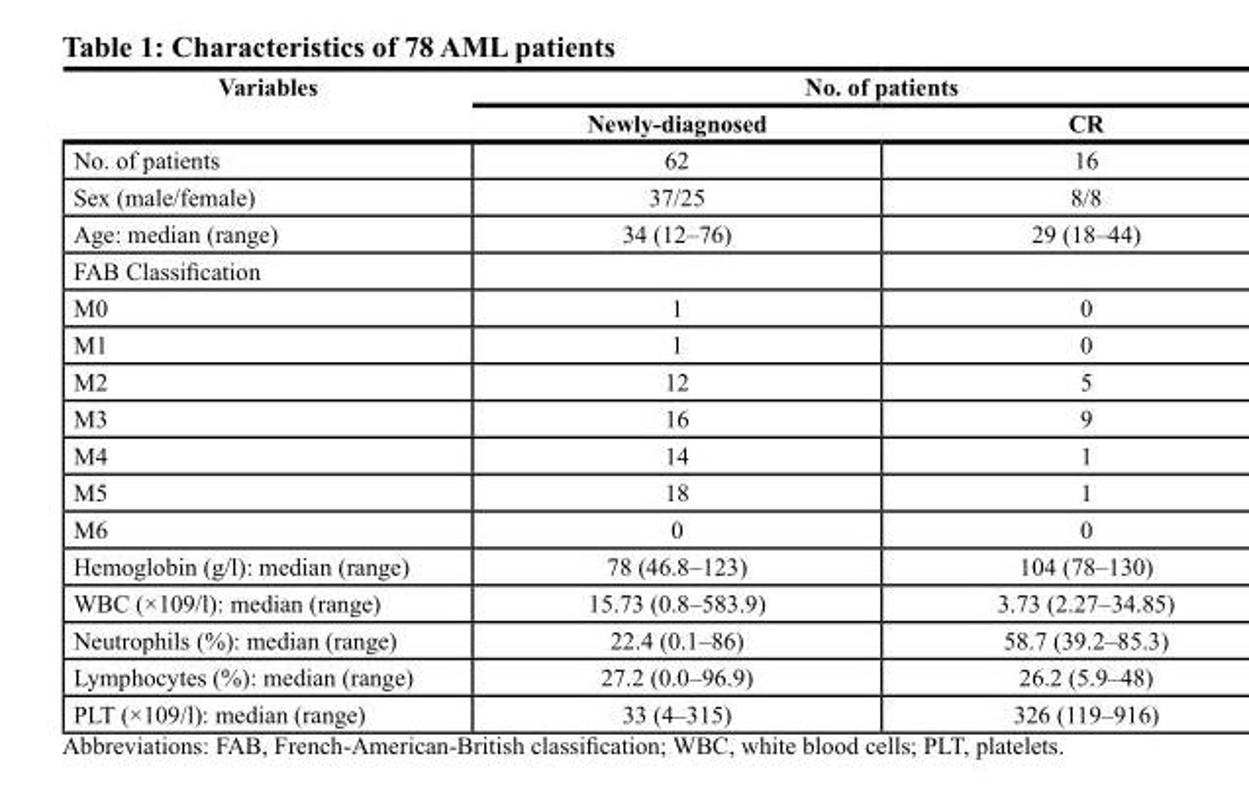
<table><thead><tr><td rowspan="2">Variables</td><td colspan="2">No. of patients</td></tr><tr><td>Newly-diagnosed</td><td>CR</td></tr></thead><tbody><tr><td>No. of patients</td><td>62</td><td>16</td></tr><tr><td>Sex (male/female)</td><td>37/25</td><td>8/8</td></tr><tr><td>Age: median (range)</td><td>34 (12–76)</td><td>29 (18–44)</td></tr><tr><td colspan="3">FAB Classification</td></tr><tr><td>M0</td><td>1</td><td>0</td></tr><tr><td>M1</td><td>1</td><td>0</td></tr><tr><td>M2</td><td>12</td><td>5</td></tr><tr><td>M3</td><td>16</td><td>9</td></tr><tr><td>M4</td><td>14</td><td>1</td></tr><tr><td>M5</td><td>18</td><td>1</td></tr><tr><td>M6</td><td>0</td><td>0</td></tr><tr><td>Hemoglobin (g/l): median (range)</td><td>78 (46.8–123)</td><td>104 (78–130)</td></tr><tr><td>WBC (×109/l): median (range)</td><td>15.73 (0.8–583.9)</td><td>3.73 (2.27–34.85)</td></tr><tr><td>Neutrophils (%): median (range)</td><td>22.4 (0.1–86)</td><td>58.7 (39.2–85.3)</td></tr><tr><td>Lymphocytes (%): median (range)</td><td>27.2 (0.0–96.9)</td><td>26.2 (5.9–48)</td></tr><tr><td>PLT (×109/l): median (range)</td><td>33 (4–315)</td><td>326 (119–916)</td></tr></tbody></table>